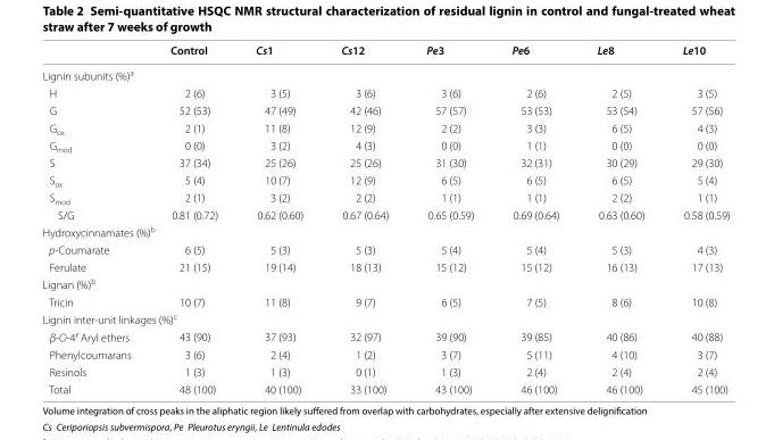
<table><thead><tr><td></td><td>Control</td><td>Cs1</td><td>Cs12</td><td>Pe3</td><td>Pe6</td><td>Le8</td><td>Le10</td></tr></thead><tbody><tr><td colspan="8">Lignin subunits (%)<sup>a</sup></td></tr><tr><td>H</td><td>2 (6)</td><td>3 (5)</td><td>3 (6)</td><td>3 (6)</td><td>2 (6)</td><td>2 (5)</td><td>3 (5)</td></tr><tr><td>G</td><td>52 (53)</td><td>47 (49)</td><td>42 (46)</td><td>57 (57)</td><td>53 (53)</td><td>53 (54)</td><td>57 (56)</td></tr><tr><td>G<sub>ox</sub></td><td>2 (1)</td><td>11 (8)</td><td>12 (9)</td><td>2 (2)</td><td>3 (3)</td><td>6 (5)</td><td>4 (3)</td></tr><tr><td>G<sub>mod</sub></td><td>0 (0)</td><td>3 (2)</td><td>4 (3)</td><td>0 (0)</td><td>1 (1)</td><td>0 (0)</td><td>0 (0)</td></tr><tr><td>S</td><td>37 (34)</td><td>25 (26)</td><td>25 (26)</td><td>31 (30)</td><td>32 (31)</td><td>30 (29)</td><td>29 (30)</td></tr><tr><td>S<sub>ox</sub></td><td>5 (4)</td><td>10 (7)</td><td>12 (9)</td><td>6 (5)</td><td>6 (5)</td><td>6 (5)</td><td>5 (4)</td></tr><tr><td>S<sub>mod</sub></td><td>2 (1)</td><td>3 (2)</td><td>2 (2)</td><td>1 (1)</td><td>1 (1)</td><td>2 (2)</td><td>1 (1)</td></tr><tr><td>S/G</td><td>0.81 (0.72)</td><td>0.62 (0.60)</td><td>0.67 (0.64)</td><td>0.65 (0.59)</td><td>0.69 (0.64)</td><td>0.63 (0.60)</td><td>0.58 (0.59)</td></tr><tr><td colspan="8">Hydroxycinnamates (%)<sup>b</sup></td></tr><tr><td>p-Coumarate</td><td>6 (5)</td><td>5 (3)</td><td>5 (3)</td><td>5 (4)</td><td>5 (4)</td><td>5 (3)</td><td>4 (3)</td></tr><tr><td>Ferulate</td><td>21 (15)</td><td>19 (14)</td><td>18 (13)</td><td>15 (12)</td><td>15 (12)</td><td>16 (13)</td><td>17 (13)</td></tr><tr><td colspan="8">Lignan (%)<sup>b</sup></td></tr><tr><td>Tricin</td><td>10 (7)</td><td>11 (8)</td><td>9 (7)</td><td>6 (5)</td><td>7 (5)</td><td>8 (6)</td><td>10 (8)</td></tr><tr><td colspan="8">Lignin inter-unit linkages (%)<sup>c</sup></td></tr><tr><td>β-O-4′ Aryl ethers</td><td>43 (90)</td><td>37 (93)</td><td>32 (97)</td><td>39 (90)</td><td>39 (85)</td><td>40 (86)</td><td>40 (88)</td></tr><tr><td>Phenylcoumarans</td><td>3 (6)</td><td>2 (4)</td><td>1 (2)</td><td>3 (7)</td><td>5 (11)</td><td>4 (10)</td><td>3 (7)</td></tr><tr><td>Resinols</td><td>1 (3)</td><td>1 (3)</td><td>0 (1)</td><td>1 (3)</td><td>2 (4)</td><td>2 (4)</td><td>2 (4)</td></tr><tr><td>Total</td><td>48 (100)</td><td>40 (100)</td><td>33 (100)</td><td>43 (100)</td><td>46 (100)</td><td>46 (100)</td><td>45 (100)</td></tr></tbody></table>